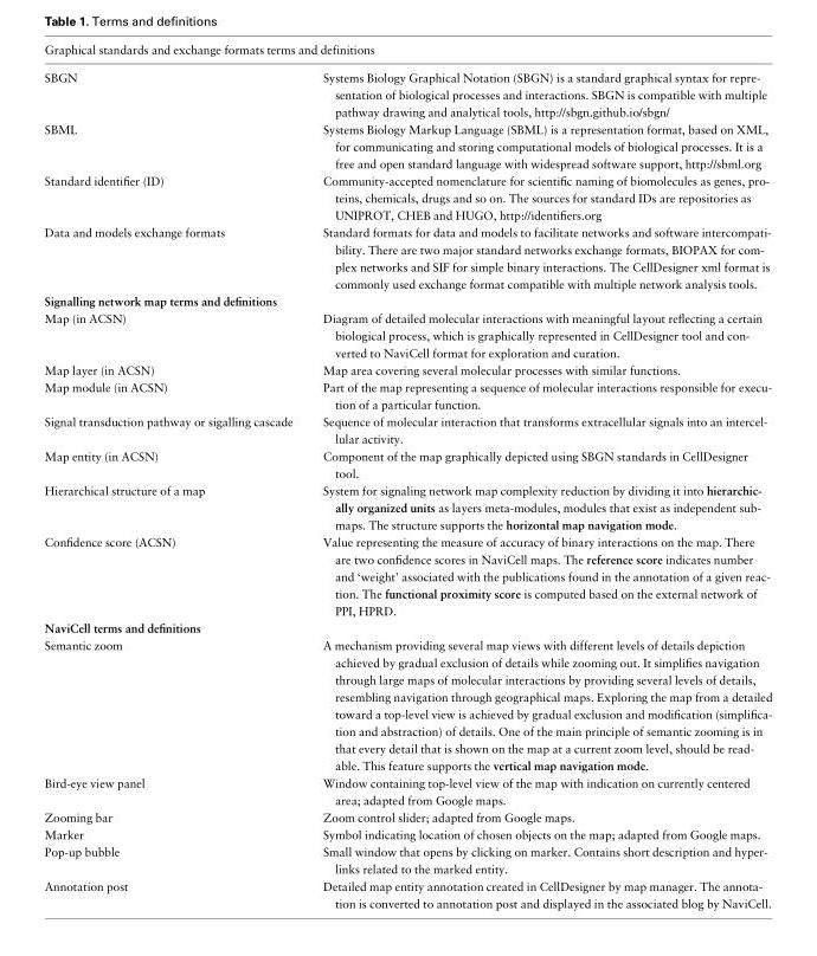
<table><thead><tr><td colspan="2">Graphical standards and exchange formats terms and definitions</td></tr><tr><td>SBGN</td><td>Systems Biology Graphical Notation (SBGN) is a standard graphical syntax for repre- sentation of biological processes and interactions. SBGN is compatible with multiple pathway drawing and analytical tools, http://sbgn.github.io/sbgn/</td></tr></thead><tbody><tr><td>SBML</td><td>Systems Biology Markup Language (SBML) is a representation format, based on XML, for communicating and storing computational models of biological processes. It is a free and open standard language with widespread software support, http://sbml.org</td></tr><tr><td>Standard identifier (ID)</td><td>Community-accepted nomenclature for scientific naming of biomolecules as genes, pro- teins, chemicals, drugs and so on. The sources for standard IDs are repositories as UNIPROT, CHEB and HUGO, http://identifiers.org</td></tr><tr><td>Data and models exchange formats</td><td>Standard formats for data and models to facilitate networks and software intercompati- bility. There are two major standard networks exchange formats, BIOPAX for com- plex networks and SIF for simple binary interactions. The CellDesigner xml format is commonly used exchange format compatible with multiple network analysis tools.</td></tr><tr><td colspan="2">Signalling network map terms and definitions</td></tr><tr><td>Map (in ACSN)</td><td>Diagram of detailed molecular interactions with meaningful layout reflecting a certain biological process, which is graphically represented in CellDesigner tool and con- verted to NaviCell format for exploration and curation.</td></tr><tr><td>Map layer (in ACSN)</td><td>Map area covering several molecular processes with similar functions.</td></tr><tr><td>Map module (in ACSN)</td><td>Part of the map representing a sequence of molecular interactions responsible for execu- tion of a particular function.</td></tr><tr><td>Signal transduction pathway or sigalling cascade</td><td>Sequence of molecular interaction that transforms extracellular signals into an intercel- lular activity.</td></tr><tr><td>Map entity (in ACSN)</td><td>Component of the map graphically depicted using SBGN standards in CellDesigner tool.</td></tr><tr><td>Hierarchical structure of a map</td><td>System for signaling network map complexity reduction by dividing it into hierarchic- ally organized units as layers meta-modules, modules that exist as independent sub- maps. The structure supports the horizontal map navigation mode.</td></tr><tr><td>Confidence score (ACSN)</td><td>Value representing the measure of accuracy of binary interactions on the map. There are two confidence scores in NaviCell maps. The reference score indicates number and ‘weight’ associated with the publications found in the annotation of a given reac- tion. The functional proximity score is computed based on the external network of PPI, HPRD.</td></tr><tr><td colspan="2">NaviCell terms and definitions</td></tr><tr><td>Semantic zoom</td><td>A mechanism providing several map views with different levels of details depiction achieved by gradual exclusion of details while zooming out. It simplifies navigation through large maps of molecular interactions by providing several levels of details, resembling navigation through geographical maps. Exploring the map from a detailed toward a top-level view is achieved by gradual exclusion and modification (simplifica- tion and abstraction) of details. One of the main principle of semantic zooming is in that every detail that is shown on the map at a current zoom level, should be read- able. This feature supports the vertical map navigation mode.</td></tr><tr><td>Bird-eye view panel</td><td>Window containing top-level view of the map with indication on currently centered area; adapted from Google maps.</td></tr><tr><td>Zooming bar</td><td>Zoom control slider; adapted from Google maps.</td></tr><tr><td>Marker</td><td>Symbol indicating location of chosen objects on the map; adapted from Google maps.</td></tr><tr><td>Pop-up bubble</td><td>Small window that opens by clicking on marker. Contains short description and hyper- links related to the marked entity.</td></tr><tr><td>Annotation post</td><td>Detailed map entity annotation created in CellDesigner by map manager. The annota- tion is converted to annotation post and displayed in the associated blog by NaviCell.</td></tr></tbody></table>